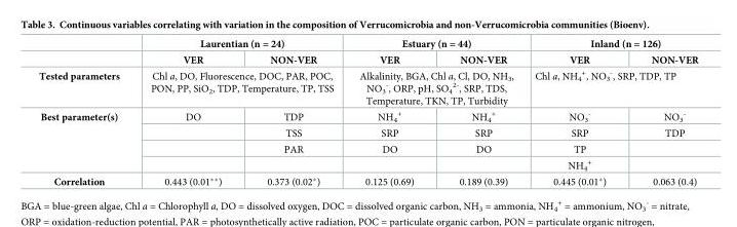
<table><thead><tr><td rowspan="2"></td><td colspan="2">Laurentian (n = 24)</td><td colspan="2">Estuary (n = 44)</td><td colspan="2">Inland (n = 126)</td></tr><tr><td>VER</td><td>NON-VER</td><td>VER</td><td>NON-VER</td><td>VER</td><td>NON-VER</td></tr></thead><tbody><tr><td>Tested parameters</td><td colspan="2">Chl a, DO, Fluorescence, DOC, PAR, POC, PON, PP, SiO<sub>2</sub>, TDP, Temperature, TP, TSS</td><td colspan="2">Alkalinity, BGA, Chl a, Cl, DO, NH<sub>3</sub>, NO<sub>3</sub> <sup>-</sup>, ORP, pH, SO<sub>4</sub> <sup>2-</sup>, SRP, TDS, Temperature, TKN, TP, Turbidity</td><td colspan="2">Chl a, NH<sub>4</sub> <sup>+</sup>, NO<sub>3</sub> <sup>-</sup>, SRP, TDP, TP</td></tr><tr><td rowspan="4">Best parameter(s)</td><td>DO</td><td>TDP</td><td>NH<sub>4</sub> <sup>+</sup></td><td>NH<sub>4</sub> <sup>+</sup></td><td>NO<sub>3</sub> <sup>-</sup></td><td>NO<sub>3</sub> <sup>-</sup></td></tr><tr><td></td><td>TSS</td><td>SRP</td><td>SRP</td><td>SRP</td><td>TDP</td></tr><tr><td></td><td>PAR</td><td>DO</td><td>DO</td><td>TP</td><td></td></tr><tr><td></td><td></td><td></td><td></td><td>NH<sub>4</sub> <sup>+</sup></td><td></td></tr><tr><td>Correlation</td><td>0.443 (0.01**)</td><td>0.373 (0.02*)</td><td>0.125 (0.69)</td><td>0.189 (0.39)</td><td>0.445 (0.01*)</td><td>0.063 (0.4)</td></tr></tbody></table>